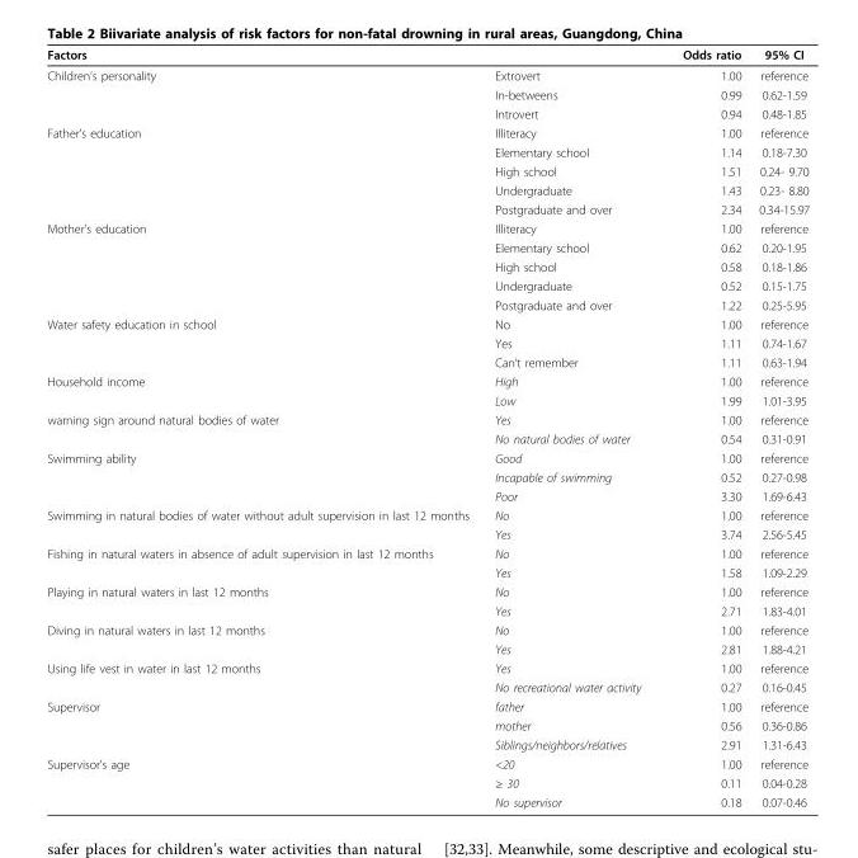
<table><thead><tr><td>Factors</td><td></td><td>Odds ratio</td><td>95% CI</td></tr></thead><tbody><tr><td rowspan="3">Children’s personality</td><td>Extrovert</td><td>1.00</td><td>reference</td></tr><tr><td>In-betweens</td><td>0.99</td><td>0.62-1.59</td></tr><tr><td>Introvert</td><td>0.94</td><td>0.48-1.85</td></tr><tr><td rowspan="5">Father’s education</td><td>Illiteracy</td><td>1.00</td><td>reference</td></tr><tr><td>Elementary school</td><td>1.14</td><td>0.18-7.30</td></tr><tr><td>High school</td><td>1.51</td><td>0.24- 9.70</td></tr><tr><td>Undergraduate</td><td>1.43</td><td>0.23- 8.80</td></tr><tr><td>Postgraduate and over</td><td>2.34</td><td>0.34-15.97</td></tr><tr><td rowspan="5">Mother’s education</td><td>Illiteracy</td><td>1.00</td><td>reference</td></tr><tr><td>Elementary school</td><td>0.62</td><td>0.20-1.95</td></tr><tr><td>High school</td><td>0.58</td><td>0.18-1.86</td></tr><tr><td>Undergraduate</td><td>0.52</td><td>0.15-1.75</td></tr><tr><td>Postgraduate and over</td><td>1.22</td><td>0.25-5.95</td></tr><tr><td rowspan="3">Water safety education in school</td><td>No</td><td>1.00</td><td>reference</td></tr><tr><td>Yes</td><td>1.11</td><td>0.74-1.67</td></tr><tr><td>Can’t remember</td><td>1.11</td><td>0.63-1.94</td></tr><tr><td rowspan="2">Household income</td><td>High</td><td>1.00</td><td>reference</td></tr><tr><td>Low</td><td>1.99</td><td>1.01-3.95</td></tr><tr><td rowspan="2">warning sign around natural bodies of water</td><td>Yes</td><td>1.00</td><td>reference</td></tr><tr><td>No natural bodies of water</td><td>0.54</td><td>0.31-0.91</td></tr><tr><td rowspan="3">Swimming ability</td><td>Good</td><td>1.00</td><td>reference</td></tr><tr><td>Incapable of swimming</td><td>0.52</td><td>0.27-0.98</td></tr><tr><td>Poor</td><td>3.30</td><td>1.69-6.43</td></tr><tr><td rowspan="2">Swimming in natural bodies of water without adult supervision in last 12 months</td><td>No</td><td>1.00</td><td>reference</td></tr><tr><td>Yes</td><td>3.74</td><td>2.56-5.45</td></tr><tr><td rowspan="2">Fishing in natural waters in absence of adult supervision in last 12 months</td><td>No</td><td>1.00</td><td>reference</td></tr><tr><td>Yes</td><td>1.58</td><td>1.09-2.29</td></tr><tr><td rowspan="2">Playing in natural waters in last 12 months</td><td>No</td><td>1.00</td><td>reference</td></tr><tr><td>Yes</td><td>2.71</td><td>1.83-4.01</td></tr><tr><td rowspan="2">Diving in natural waters in last 12 months</td><td>No</td><td>1.00</td><td>reference</td></tr><tr><td>Yes</td><td>2.81</td><td>1.88-4.21</td></tr><tr><td rowspan="2">Using life vest in water in last 12 months</td><td>Yes</td><td>1.00</td><td>reference</td></tr><tr><td>No recreational water activity</td><td>0.27</td><td>0.16-0.45</td></tr><tr><td rowspan="3">Supervisor</td><td>father</td><td>1.00</td><td>reference</td></tr><tr><td>mother</td><td>0.56</td><td>0.36-0.86</td></tr><tr><td>Siblings/neighbors/relatives</td><td>2.91</td><td>1.31-6.43</td></tr><tr><td rowspan="3">Supervisor’s age</td><td>&lt;20</td><td>1.00</td><td>reference</td></tr><tr><td>≥ 30</td><td>0.11</td><td>0.04-0.28</td></tr><tr><td>No supervisor</td><td>0.18</td><td>0.07-0.46</td></tr></tbody></table>